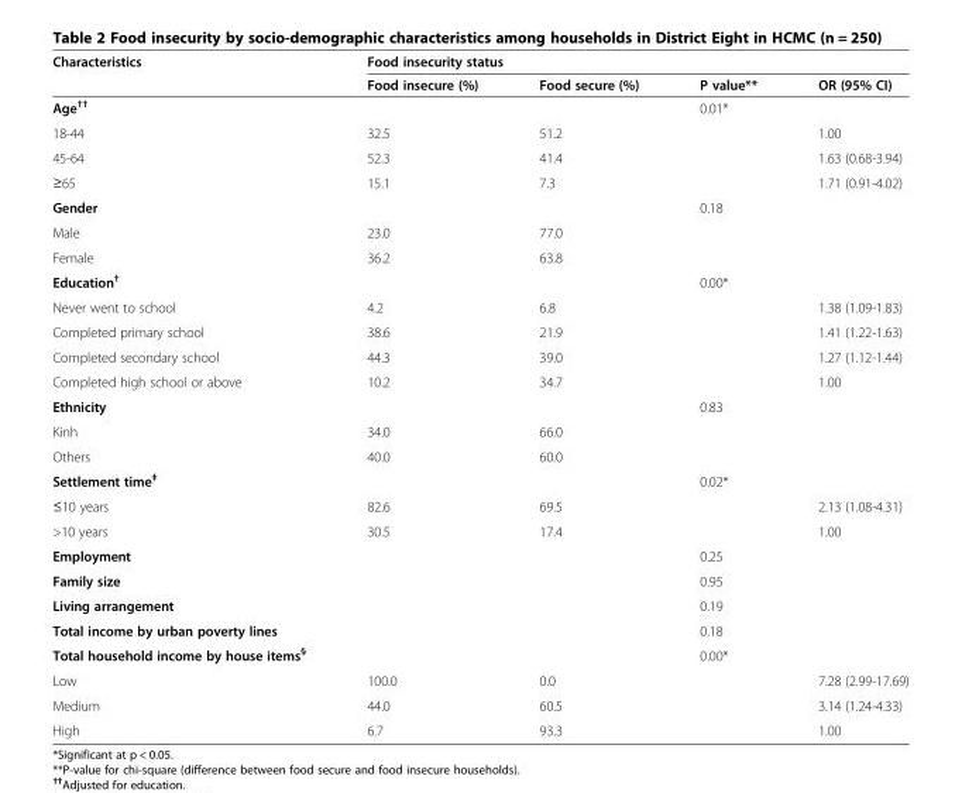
<table><thead><tr><td rowspan="2">Characteristics</td><td colspan="4">Food insecurity status</td></tr><tr><td>Food insecure (%)</td><td>Food secure (%)</td><td>P value**</td><td>OR (95% CI)</td></tr></thead><tbody><tr><td>Age<sup>††</sup></td><td></td><td></td><td>0.01*</td><td></td></tr><tr><td>18-44</td><td>32.5</td><td>51.2</td><td></td><td>1.00</td></tr><tr><td>45-64</td><td>52.3</td><td>41.4</td><td></td><td>1.63 (0.68-3.94)</td></tr><tr><td>≥65</td><td>15.1</td><td>7.3</td><td></td><td>1.71 (0.91-4.02)</td></tr><tr><td>Gender</td><td></td><td></td><td>0.18</td><td></td></tr><tr><td>Male</td><td>23.0</td><td>77.0</td><td></td><td></td></tr><tr><td>Female</td><td>36.2</td><td>63.8</td><td></td><td></td></tr><tr><td>Education<sup>†</sup></td><td></td><td></td><td>0.00*</td><td></td></tr><tr><td>Never went to school</td><td>4.2</td><td>6.8</td><td></td><td>1.38 (1.09-1.83)</td></tr><tr><td>Completed primary school</td><td>38.6</td><td>21.9</td><td></td><td>1.41 (1.22-1.63)</td></tr><tr><td>Completed secondary school</td><td>44.3</td><td>39.0</td><td></td><td>1.27 (1.12-1.44)</td></tr><tr><td>Completed high school or above</td><td>10.2</td><td>34.7</td><td></td><td>1.00</td></tr><tr><td>Ethnicity</td><td></td><td></td><td>0.83</td><td></td></tr><tr><td>Kinh</td><td>34.0</td><td>66.0</td><td></td><td></td></tr><tr><td>Others</td><td>40.0</td><td>60.0</td><td></td><td></td></tr><tr><td>Settlement time<sup>‡</sup></td><td></td><td></td><td>0.02*</td><td></td></tr><tr><td>≤10 years</td><td>82.6</td><td>69.5</td><td></td><td>2.13 (1.08-4.31)</td></tr><tr><td>&gt;10 years</td><td>30.5</td><td>17.4</td><td></td><td>1.00</td></tr><tr><td>Employment</td><td></td><td></td><td>0.25</td><td></td></tr><tr><td>Family size</td><td></td><td></td><td>0.95</td><td></td></tr><tr><td>Living arrangement</td><td></td><td></td><td>0.19</td><td></td></tr><tr><td>Total income by urban poverty lines</td><td></td><td></td><td>0.18</td><td></td></tr><tr><td>Total household income by house items<sup>§</sup></td><td></td><td></td><td>0.00*</td><td></td></tr><tr><td>Low</td><td>100.0</td><td>0.0</td><td></td><td>7.28 (2.99-17.69)</td></tr><tr><td>Medium</td><td>44.0</td><td>60.5</td><td></td><td>3.14 (1.24-4.33)</td></tr><tr><td>High</td><td>6.7</td><td>93.3</td><td></td><td>1.00</td></tr></tbody></table>